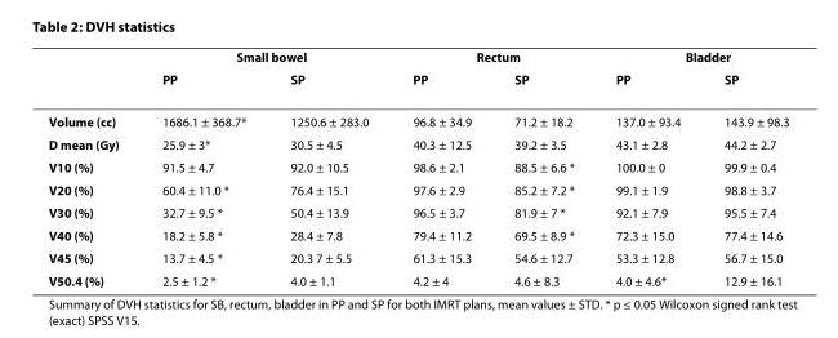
<table><thead><tr><td rowspan="2"></td><td colspan="2">Small bowel</td><td colspan="2">Rectum</td><td colspan="2">Bladder</td></tr><tr><td>PP</td><td>SP</td><td>PP</td><td>SP</td><td>PP</td><td>SP</td></tr></thead><tbody><tr><td>Volume (cc)</td><td>1686.1 ± 368.7*</td><td>1250.6 ± 283.0</td><td>96.8 ± 34.9</td><td>71.2 ± 18.2</td><td>137.0 ± 93.4</td><td>143.9 ± 98.3</td></tr><tr><td>D mean (Gy)</td><td>25.9 ± 3*</td><td>30.5 ± 4.5</td><td>40.3 ± 12.5</td><td>39.2 ± 3.5</td><td>43.1 ± 2.8</td><td>44.2 ± 2.7</td></tr><tr><td>V10 (%)</td><td>91.5 ± 4.7</td><td>92.0 ± 10.5</td><td>98.6 ± 2.1</td><td>88.5 ± 6.6 *</td><td>100.0 ± 0</td><td>99.9 ± 0.4</td></tr><tr><td>V20 (%)</td><td>60.4 ± 11.0 *</td><td>76.4 ± 15.1</td><td>97.6 ± 2.9</td><td>85.2 ± 7.2 *</td><td>99.1 ± 1.9</td><td>98.8 ± 3.7</td></tr><tr><td>V30 (%)</td><td>32.7 ± 9.5 *</td><td>50.4 ± 13.9</td><td>96.5 ± 3.7</td><td>81.9 ± 7 *</td><td>92.1 ± 7.9</td><td>95.5 ± 7.4</td></tr><tr><td>V40 (%)</td><td>18.2 ± 5.8 *</td><td>28.4 ± 7.8</td><td>79.4 ± 11.2</td><td>69.5 ± 8.9 *</td><td>72.3 ± 15.0</td><td>77.4 ± 14.6</td></tr><tr><td>V45 (%)</td><td>13.7 ± 4.5 *</td><td>20.3 7 ± 5.5</td><td>61.3 ± 15.3</td><td>54.6 ± 12.7</td><td>53.3 ± 12.8</td><td>56.7 ± 15.0</td></tr><tr><td>V50.4 (%)</td><td>2.5 ± 1.2 *</td><td>4.0 ± 1.1</td><td>4.2 ± 4</td><td>4.6 ± 8.3</td><td>4.0 ± 4.6*</td><td>12.9 ± 16.1</td></tr></tbody></table>